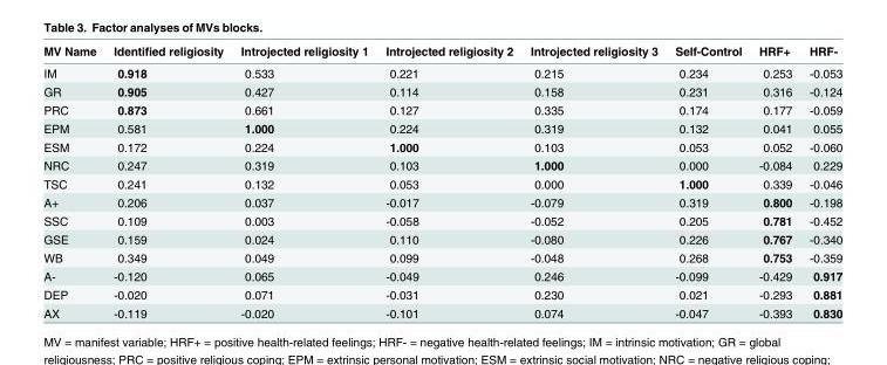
<table><thead><tr><td>MV Name</td><td>Identified religiosity</td><td>Introjected religiosity 1</td><td>Introjected religiosity 2</td><td>Introjected religiosity 3</td><td>Self-Control</td><td>HRF+</td><td>HRF-</td></tr></thead><tbody><tr><td>IM</td><td>0.918</td><td>0.533</td><td>0.221</td><td>0.215</td><td>0.234</td><td>0.253</td><td>-0.053</td></tr><tr><td>GR</td><td>0.905</td><td>0.427</td><td>0.114</td><td>0.158</td><td>0.231</td><td>0.316</td><td>-0.124</td></tr><tr><td>PRC</td><td>0.873</td><td>0.661</td><td>0.127</td><td>0.335</td><td>0.174</td><td>0.177</td><td>-0.059</td></tr><tr><td>EPM</td><td>0.581</td><td>1.000</td><td>0.224</td><td>0.319</td><td>0.132</td><td>0.041</td><td>0.055</td></tr><tr><td>ESM</td><td>0.172</td><td>0.224</td><td>1.000</td><td>0.103</td><td>0.053</td><td>0.052</td><td>-0.060</td></tr><tr><td>NRC</td><td>0.247</td><td>0.319</td><td>0.103</td><td>1.000</td><td>0.000</td><td>-0.084</td><td>0.229</td></tr><tr><td>TSC</td><td>0.241</td><td>0.132</td><td>0.053</td><td>0.000</td><td>1.000</td><td>0.339</td><td>-0.046</td></tr><tr><td>A+</td><td>0.206</td><td>0.037</td><td>-0.017</td><td>-0.079</td><td>0.319</td><td>0.800</td><td>-0.198</td></tr><tr><td>SSC</td><td>0.109</td><td>0.003</td><td>-0.058</td><td>-0.052</td><td>0.205</td><td>0.781</td><td>-0.452</td></tr><tr><td>GSE</td><td>0.159</td><td>0.024</td><td>0.110</td><td>-0.080</td><td>0.226</td><td>0.767</td><td>-0.340</td></tr><tr><td>WB</td><td>0.349</td><td>0.049</td><td>0.099</td><td>-0.048</td><td>0.268</td><td>0.753</td><td>-0.359</td></tr><tr><td>A-</td><td>-0.120</td><td>0.065</td><td>-0.049</td><td>0.246</td><td>-0.099</td><td>-0.429</td><td>0.917</td></tr><tr><td>DEP</td><td>-0.020</td><td>0.071</td><td>-0.031</td><td>0.230</td><td>0.021</td><td>-0.293</td><td>0.881</td></tr><tr><td>AX</td><td>-0.119</td><td>-0.020</td><td>-0.101</td><td>0.074</td><td>-0.047</td><td>-0.393</td><td>0.830</td></tr></tbody></table>